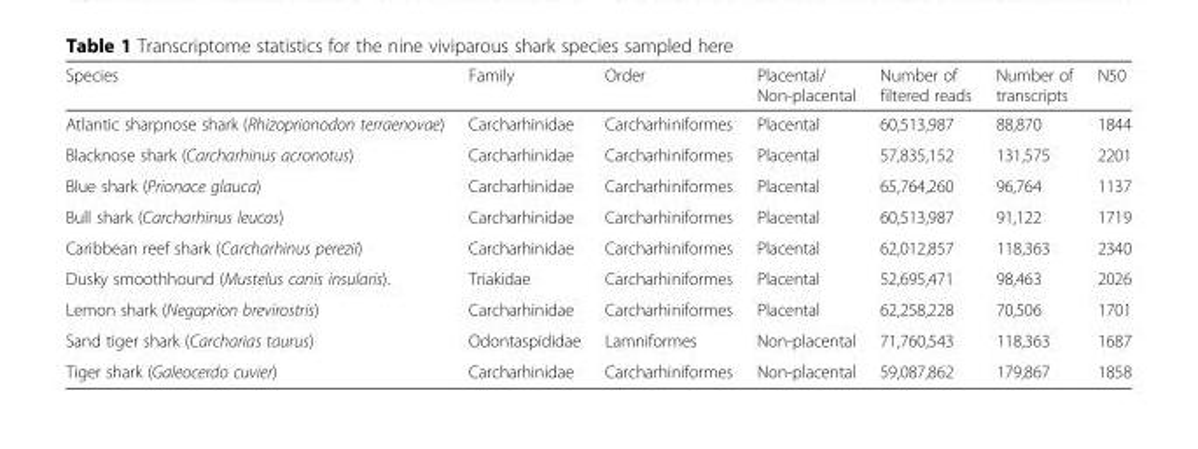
<table><thead><tr><td>Species</td><td>Family</td><td>Order</td><td>Placental/ Non-placental</td><td>Number of filtered reads</td><td>Number of transcripts</td><td>N50</td></tr></thead><tbody><tr><td>Atlantic sharpnose shark (Rhizoprionodon terraenovae)</td><td>Carcharhinidae</td><td>Carcharhiniformes</td><td>Placental</td><td>60,513,987</td><td>88,870</td><td>1844</td></tr><tr><td>Blacknose shark (Carcharhinus acronotus)</td><td>Carcharhinidae</td><td>Carcharhiniformes</td><td>Placental</td><td>57,835,152</td><td>131,575</td><td>2201</td></tr><tr><td>Blue shark (Prionace glauca)</td><td>Carcharhinidae</td><td>Carcharhiniformes</td><td>Placental</td><td>65,764,260</td><td>96,764</td><td>1137</td></tr><tr><td>Bull shark (Carcharhinus leucas)</td><td>Carcharhinidae</td><td>Carcharhiniformes</td><td>Placental</td><td>60,513,987</td><td>91,122</td><td>1719</td></tr><tr><td>Caribbean reef shark (Carcharhinus perezii)</td><td>Carcharhinidae</td><td>Carcharhiniformes</td><td>Placental</td><td>62,012,857</td><td>118,363</td><td>2340</td></tr><tr><td>Dusky smoothhound (Mustelus canis insularis).</td><td>Triakidae</td><td>Carcharhiniformes</td><td>Placental</td><td>52,695,471</td><td>98,463</td><td>2026</td></tr><tr><td>Lemon shark (Negaprion brevirostris)</td><td>Carcharhinidae</td><td>Carcharhiniformes</td><td>Placental</td><td>62,258,228</td><td>70,506</td><td>1701</td></tr><tr><td>Sand tiger shark (Carcharias taurus)</td><td>Odontaspididae</td><td>Lamniformes</td><td>Non-placental</td><td>71,760,543</td><td>118,363</td><td>1687</td></tr><tr><td>Tiger shark (Galeocerdo cuvier)</td><td>Carcharhinidae</td><td>Carcharhiniformes</td><td>Non-placental</td><td>59,087,862</td><td>179,867</td><td>1858</td></tr></tbody></table>